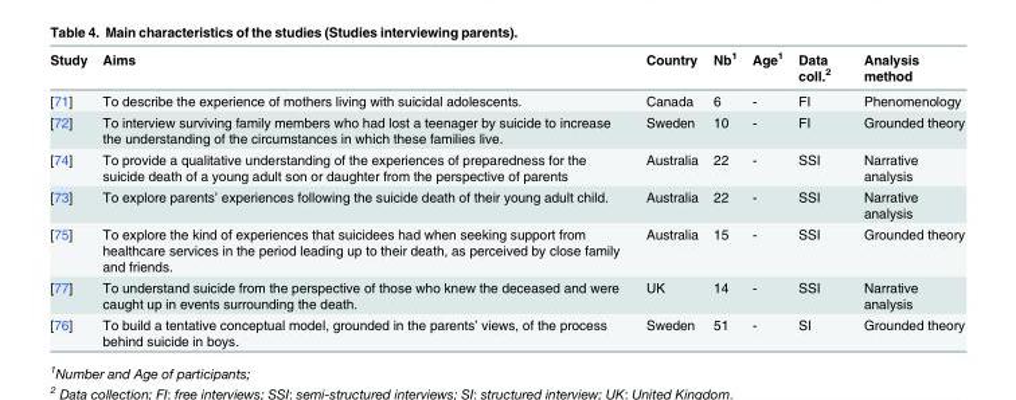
<table><thead><tr><td>Study</td><td>Aims</td><td>Country</td><td>Nb<sup>1</sup></td><td>Age<sup>1</sup></td><td>Data coll.<sup>2</sup></td><td>Analysis method</td></tr></thead><tbody><tr><td>[71]</td><td>To describe the experience of mothers living with suicidal adolescents.</td><td>Canada</td><td>6</td><td>-</td><td>FI</td><td>Phenomenology</td></tr><tr><td>[72]</td><td>To interview surviving family members who had lost a teenager by suicide to increase the understanding of the circumstances in which these families live.</td><td>Sweden</td><td>10</td><td>-</td><td>FI</td><td>Grounded theory</td></tr><tr><td>[74]</td><td>To provide a qualitative understanding of the experiences of preparedness for the suicide death of a young adult son or daughter from the perspective of parents</td><td>Australia</td><td>22</td><td>-</td><td>SSI</td><td>Narrative analysis</td></tr><tr><td>[73]</td><td>To explore parents’ experiences following the suicide death of their young adult child.</td><td>Australia</td><td>22</td><td>-</td><td>SSI</td><td>Narrative analysis</td></tr><tr><td>[75]</td><td>To explore the kind of experiences that suicidees had when seeking support from healthcare services in the period leading up to their death, as perceived by close family and friends.</td><td>Australia</td><td>15</td><td>-</td><td>SSI</td><td>Grounded theory</td></tr><tr><td>[77]</td><td>To understand suicide from the perspective of those who knew the deceased and were caught up in events surrounding the death.</td><td>UK</td><td>14</td><td>-</td><td>SSI</td><td>Narrative analysis</td></tr><tr><td>[76]</td><td>To build a tentative conceptual model, grounded in the parents’ views, of the process behind suicide in boys.</td><td>Sweden</td><td>51</td><td>-</td><td>SI</td><td>Grounded theory</td></tr></tbody></table>